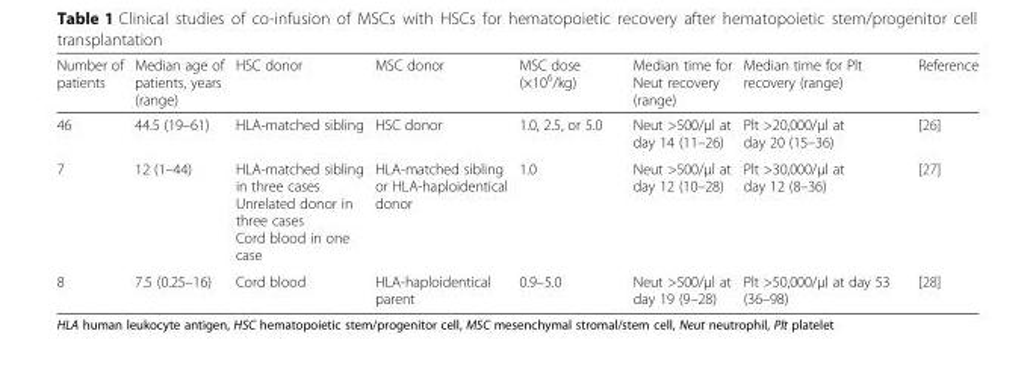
<table><thead><tr><td>Number of patients</td><td>Median age of patients, years (range)</td><td>HSC donor</td><td>MSC donor</td><td>MSC dose (×10<sup>6</sup>/kg)</td><td>Median time for Neut recovery (range)</td><td>Median time for Plt recovery (range)</td><td>Reference</td></tr></thead><tbody><tr><td>46</td><td>44.5 (19–61)</td><td>HLA-matched sibling</td><td>HSC donor</td><td>1.0, 2.5, or 5.0</td><td>Neut &gt;500/μl at day 14 (11–26)</td><td>Plt &gt;20,000/μl at day 20 (15–36)</td><td>[26]</td></tr><tr><td>7</td><td>12 (1–44)</td><td>HLA-matched sibling in three cases Unrelated donor in three cases Cord blood in one case</td><td>HLA-matched sibling or HLA-haploidentical donor</td><td>1.0</td><td>Neut &gt;500/μl at day 12 (10–28)</td><td>Plt &gt;30,000/μl at day 12 (8–36)</td><td>[27]</td></tr><tr><td>8</td><td>7.5 (0.25–16)</td><td>Cord blood</td><td>HLA-haploidentical parent</td><td>0.9–5.0</td><td>Neut &gt;500/μl at day 19 (9–28)</td><td>Plt &gt;50,000/μl at day 53 (36–98)</td><td>[28]</td></tr></tbody></table>